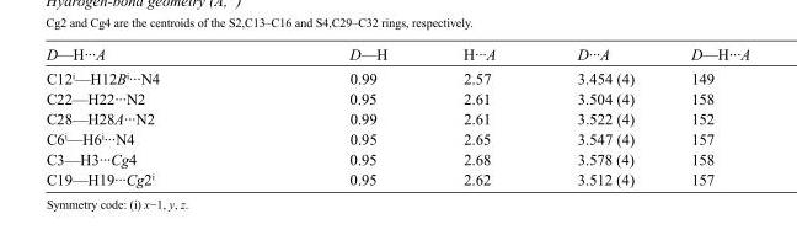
<table><tbody><tr><td>D—H···A</td><td>D—H</td><td>H···A</td><td>D···A</td><td>D—H···A</td></tr><tr><td>C12<sup>i</sup>—H12B<sup>i</sup>···N4</td><td>0.99</td><td>2.57</td><td>3.454 (4)</td><td>149</td></tr><tr><td>C22—H22···N2</td><td>0.95</td><td>2.61</td><td>3.504 (4)</td><td>158</td></tr><tr><td>C28—H28A···N2</td><td>0.99</td><td>2.61</td><td>3.522 (4)</td><td>152</td></tr><tr><td>C6<sup>i</sup>—H6<sup>i</sup>···N4</td><td>0.95</td><td>2.65</td><td>3.547 (4)</td><td>157</td></tr><tr><td>C3—H3···Cg4</td><td>0.95</td><td>2.68</td><td>3.578 (4)</td><td>158</td></tr><tr><td>C19—H19···Cg2<sup>i</sup></td><td>0.95</td><td>2.62</td><td>3.512 (4)</td><td>157</td></tr></tbody></table>